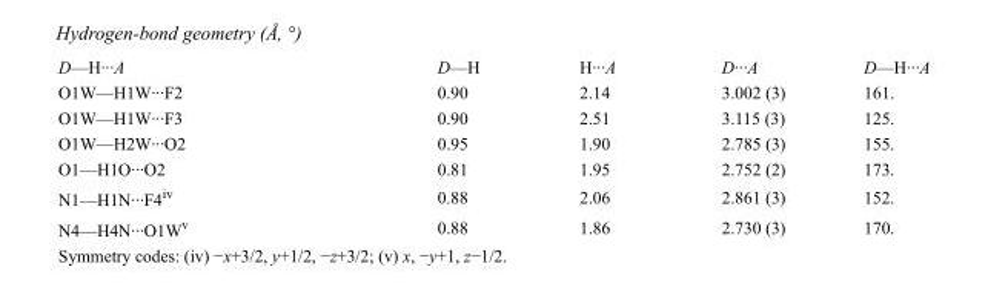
<table><tbody><tr><td>D—H···A</td><td>D—H</td><td>H···A</td><td>D···A</td><td>D—H···A</td></tr><tr><td>O1W—H1W···F2</td><td>0.90</td><td>2.14</td><td>3.002 (3)</td><td>161.</td></tr><tr><td>O1W—H1W···F3</td><td>0.90</td><td>2.51</td><td>3.115 (3)</td><td>125.</td></tr><tr><td>O1W—H2W···O2</td><td>0.95</td><td>1.90</td><td>2.785 (3)</td><td>155.</td></tr><tr><td>O1—H1O···O2</td><td>0.81</td><td>1.95</td><td>2.752 (2)</td><td>173.</td></tr><tr><td>N1—H1N···F4<sup>iv</sup></td><td>0.88</td><td>2.06</td><td>2.861 (3)</td><td>152.</td></tr><tr><td>N4—H4N···O1W<sup>v</sup></td><td>0.88</td><td>1.86</td><td>2.730 (3)</td><td>170.</td></tr></tbody></table>